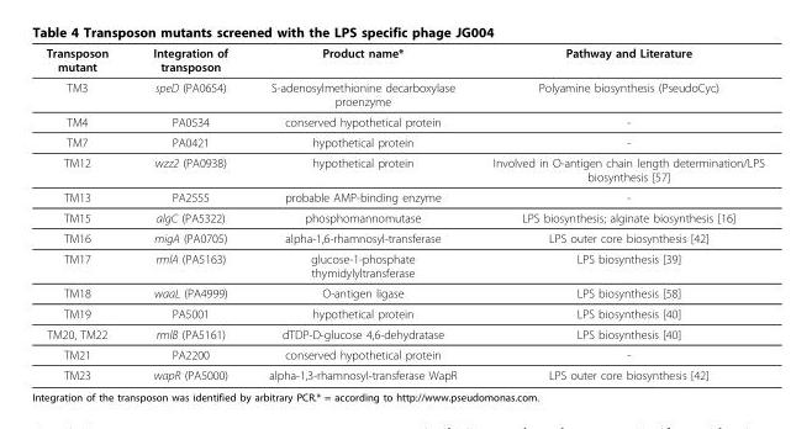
<table><thead><tr><td>Transposon mutant</td><td>Integration of transposon</td><td>Product name*</td><td>Pathway and Literature</td></tr></thead><tbody><tr><td>TM3</td><td>speD (PA0654)</td><td>S-adenosylmethionine decarboxylase proenzyme</td><td>Polyamine biosynthesis (PseudoCyc)</td></tr><tr><td>TM4</td><td>PA0534</td><td>conserved hypothetical protein</td><td>-</td></tr><tr><td>TM7</td><td>PA0421</td><td>hypothetical protein</td><td>-</td></tr><tr><td>TM12</td><td>wzz2 (PA0938)</td><td>hypothetical protein</td><td>Involved in O-antigen chain length determination/LPS biosynthesis [57]</td></tr><tr><td>TM13</td><td>PA2555</td><td>probable AMP-binding enzyme</td><td>-</td></tr><tr><td>TM15</td><td>algC (PA5322)</td><td>phosphomannomutase</td><td>LPS biosynthesis; alginate biosynthesis [16]</td></tr><tr><td>TM16</td><td>migA (PA0705)</td><td>alpha-1,6-rhamnosyl-transferase</td><td>LPS outer core biosynthesis [42]</td></tr><tr><td>TM17</td><td>rmlA (PA5163)</td><td>glucose-1-phosphate thymidylyltransferase</td><td>LPS biosynthesis [39]</td></tr><tr><td>TM18</td><td>waaL (PA4999)</td><td>O-antigen ligase</td><td>LPS biosynthesis [58]</td></tr><tr><td>TM19</td><td>PA5001</td><td>hypothetical protein</td><td>LPS biosynthesis [40]</td></tr><tr><td>TM20, TM22</td><td>rmlB (PA5161)</td><td>dTDP-D-glucose 4,6-dehydratase</td><td>LPS biosynthesis [40]</td></tr><tr><td>TM21</td><td>PA2200</td><td>conserved hypothetical protein</td><td>-</td></tr><tr><td>TM23</td><td>wapR (PA5000)</td><td>alpha-1,3-rhamnosyl-transferase WapR</td><td>LPS outer core biosynthesis [42]</td></tr></tbody></table>